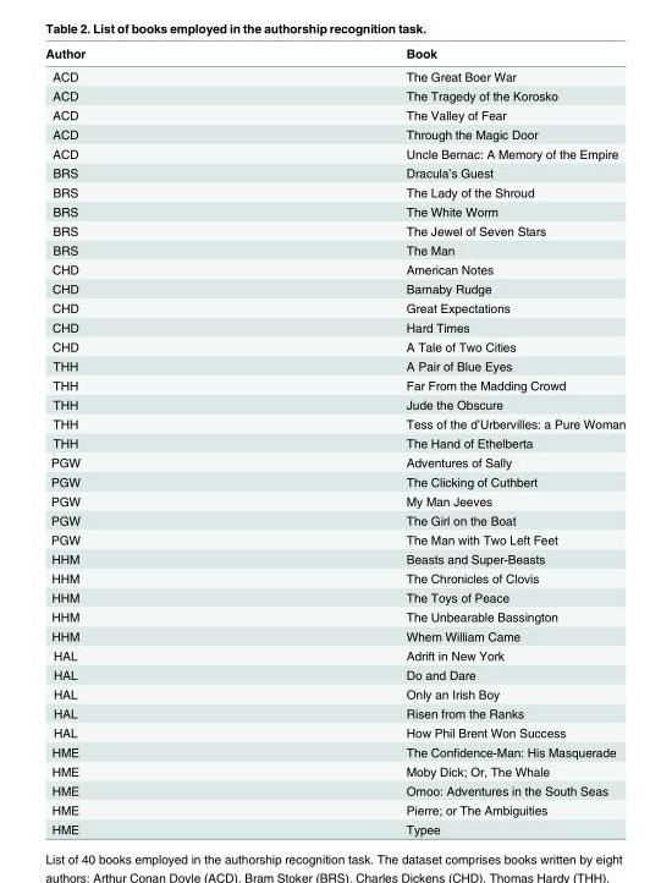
<table><thead><tr><td>Author</td><td>Book</td></tr></thead><tbody><tr><td>ACD</td><td>The Great Boer War</td></tr><tr><td>ACD</td><td>The Tragedy of the Korosko</td></tr><tr><td>ACD</td><td>The Valley of Fear</td></tr><tr><td>ACD</td><td>Through the Magic Door</td></tr><tr><td>ACD</td><td>Uncle Bernac: A Memory of the Empire</td></tr><tr><td>BRS</td><td>Dracula’s Guest</td></tr><tr><td>BRS</td><td>The Lady of the Shroud</td></tr><tr><td>BRS</td><td>The White Worm</td></tr><tr><td>BRS</td><td>The Jewel of Seven Stars</td></tr><tr><td>BRS</td><td>The Man</td></tr><tr><td>CHD</td><td>American Notes</td></tr><tr><td>CHD</td><td>Barnaby Rudge</td></tr><tr><td>CHD</td><td>Great Expectations</td></tr><tr><td>CHD</td><td>Hard Times</td></tr><tr><td>CHD</td><td>A Tale of Two Cities</td></tr><tr><td>THH</td><td>A Pair of Blue Eyes</td></tr><tr><td>THH</td><td>Far From the Madding Crowd</td></tr><tr><td>THH</td><td>Jude the Obscure</td></tr><tr><td>THH</td><td>Tess of the d’Urbervilles: a Pure Woman</td></tr><tr><td>THH</td><td>The Hand of Ethelberta</td></tr><tr><td>PGW</td><td>Adventures of Sally</td></tr><tr><td>PGW</td><td>The Clicking of Cuthbert</td></tr><tr><td>PGW</td><td>My Man Jeeves</td></tr><tr><td>PGW</td><td>The Girl on the Boat</td></tr><tr><td>PGW</td><td>The Man with Two Left Feet</td></tr><tr><td>HHM</td><td>Beasts and Super-Beasts</td></tr><tr><td>HHM</td><td>The Chronicles of Clovis</td></tr><tr><td>HHM</td><td>The Toys of Peace</td></tr><tr><td>HHM</td><td>The Unbearable Bassington</td></tr><tr><td>HHM</td><td>Whem William Came</td></tr><tr><td>HAL</td><td>Adrift in New York</td></tr><tr><td>HAL</td><td>Do and Dare</td></tr><tr><td>HAL</td><td>Only an Irish Boy</td></tr><tr><td>HAL</td><td>Risen from the Ranks</td></tr><tr><td>HAL</td><td>How Phil Brent Won Success</td></tr><tr><td>HME</td><td>The Confidence-Man: His Masquerade</td></tr><tr><td>HME</td><td>Moby Dick; Or, The Whale</td></tr><tr><td>HME</td><td>Omoo: Adventures in the South Seas</td></tr><tr><td>HME</td><td>Pierre; or The Ambiguities</td></tr><tr><td>HME</td><td>Typee</td></tr></tbody></table>